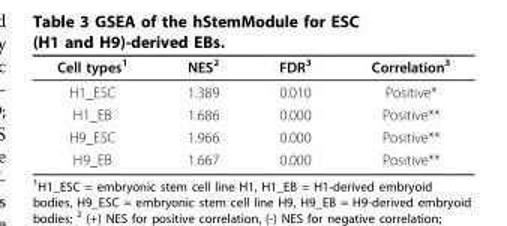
<table><thead><tr><td>Cell types<sup>1</sup></td><td>NES<sup>2</sup></td><td>FDR<sup>3</sup></td><td>Correlation<sup>3</sup></td></tr></thead><tbody><tr><td>H1_ESC</td><td>1.389</td><td>0.010</td><td>Positive*</td></tr><tr><td>H1_EB</td><td>1.686</td><td>0.000</td><td>Positive**</td></tr><tr><td>H9_ESC</td><td>1.966</td><td>0.000</td><td>Positive**</td></tr><tr><td>H9_EB</td><td>1.667</td><td>0.000</td><td>Positive**</td></tr></tbody></table>